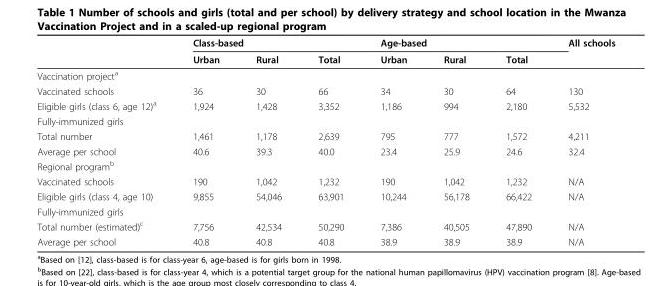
<table><thead><tr><td rowspan="2"></td><td colspan="3">Class-based</td><td colspan="3">Age-based</td><td rowspan="2">All schools</td></tr><tr><td>Urban</td><td>Rural</td><td>Total</td><td>Urban</td><td>Rural</td><td>Total</td></tr></thead><tbody><tr><td colspan="8">Vaccination project<sup>a</sup></td></tr><tr><td>Vaccinated schools</td><td>36</td><td>30</td><td>66</td><td>34</td><td>30</td><td>64</td><td>130</td></tr><tr><td>Eligible girls (class 6, age 12)<sup>a</sup></td><td>1,924</td><td>1,428</td><td>3,352</td><td>1,186</td><td>994</td><td>2,180</td><td>5,532</td></tr><tr><td colspan="8">Fully-immunized girls</td></tr><tr><td>Total number</td><td>1,461</td><td>1,178</td><td>2,639</td><td>795</td><td>777</td><td>1,572</td><td>4,211</td></tr><tr><td>Average per school</td><td>40.6</td><td>39.3</td><td>40.0</td><td>23.4</td><td>25.9</td><td>24.6</td><td>32.4</td></tr><tr><td colspan="8">Regional program<sup>b</sup></td></tr><tr><td>Vaccinated schools</td><td>190</td><td>1,042</td><td>1,232</td><td>190</td><td>1,042</td><td>1,232</td><td>N/A</td></tr><tr><td>Eligible girls (class 4, age 10)</td><td>9,855</td><td>54,046</td><td>63,901</td><td>10,244</td><td>56,178</td><td>66,422</td><td>N/A</td></tr><tr><td colspan="8">Fully-immunized girls</td></tr><tr><td>Total number (estimated)<sup>c</sup></td><td>7,756</td><td>42,534</td><td>50,290</td><td>7,386</td><td>40,505</td><td>47,890</td><td>N/A</td></tr><tr><td>Average per school</td><td>40.8</td><td>40.8</td><td>40.8</td><td>38.9</td><td>38.9</td><td>38.9</td><td>N/A</td></tr></tbody></table>